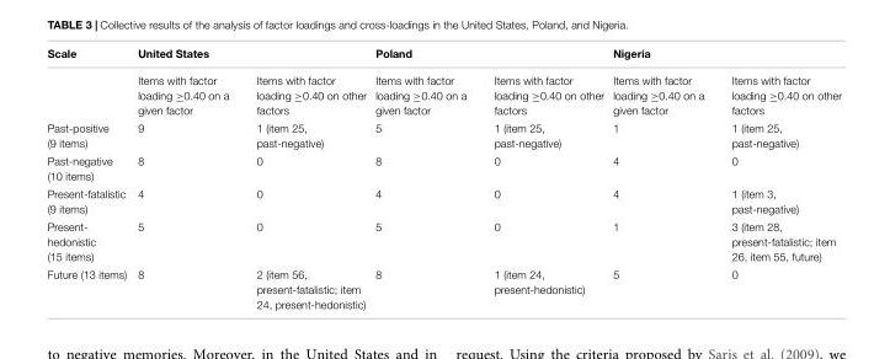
<table><thead><tr><td>Scale</td><td>United States</td><td></td><td>Poland</td><td></td><td>Nigeria</td><td></td></tr></thead><tbody><tr><td></td><td>Items with factor loading ≥0.40 on a given factor</td><td>Items with factor loading ≥0.40 on other factors</td><td>Items with factor loading ≥0.40 on a given factor</td><td>Items with factor loading ≥0.40 on other factors</td><td>Items with factor loading ≥0.40 on a given factor</td><td>Items with factor loading ≥0.40 on other factors</td></tr><tr><td>Past-positive (9 items)</td><td>9</td><td>1 (item 25, past-negative)</td><td>5</td><td>1 (item 25, past-negative)</td><td>1</td><td>1 (item 25, past-negative)</td></tr><tr><td>Past-negative (10 items)</td><td>8</td><td>0</td><td>8</td><td>0</td><td>4</td><td>0</td></tr><tr><td>Present-fatalistic (9 items)</td><td>4</td><td>0</td><td>4</td><td>0</td><td>4</td><td>1 (item 3, past-negative)</td></tr><tr><td>Present- hedonistic (15 items)</td><td>5</td><td>0</td><td>5</td><td>0</td><td>1</td><td>3 (item 28, present-fatalistic; item 26, item 55, future)</td></tr><tr><td>Future (13 items)</td><td>8</td><td>2 (item 56, present-fatalistic; item 24, present-hedonistic)</td><td>8</td><td>1 (item 24, present-hedonistic)</td><td>5</td><td>0</td></tr></tbody></table>